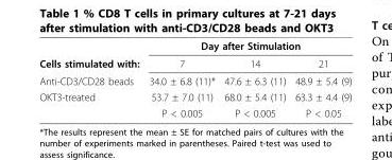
<table><thead><tr><td rowspan="2">Cells stimulated with:</td><td colspan="3">Day after Stimulation</td></tr><tr><td>7</td><td>14</td><td>21</td></tr></thead><tbody><tr><td>Anti-CD3/CD28 beads</td><td>34.0 ± 6.8 (11)*</td><td>47.6 ± 6.3 (11)</td><td>48.9 ± 5.4 (9)</td></tr><tr><td rowspan="2">OKT3-treated</td><td>53.7 ± 7.0 (11)</td><td>68.0 ± 5.4 (11)</td><td>63.3 ± 4.4 (9)</td></tr><tr><td>P &lt; 0.005</td><td>P &lt; 0.005</td><td>P &lt; 0.05</td></tr></tbody></table>